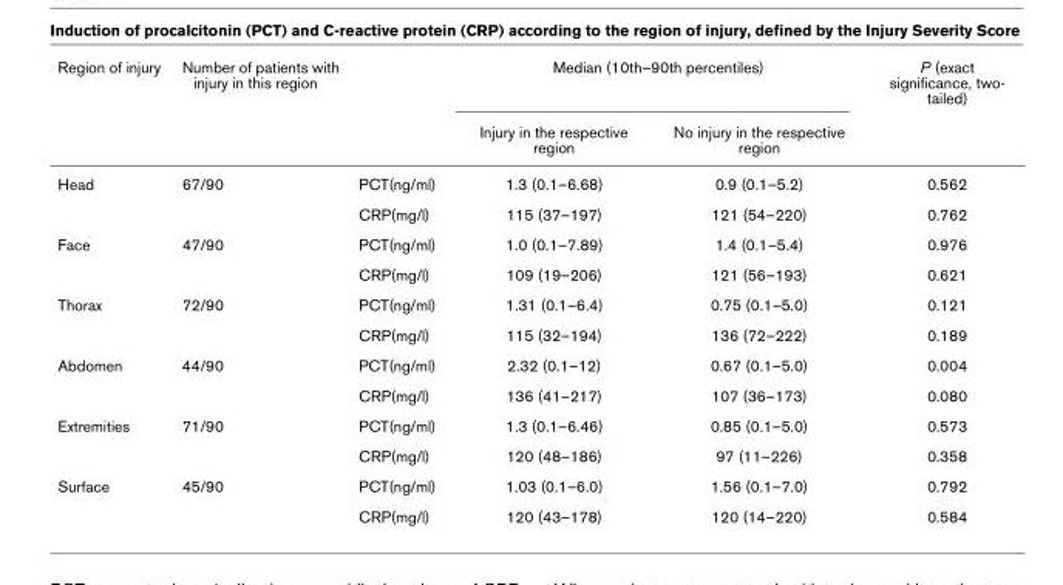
<table><thead><tr><td rowspan="2">Region of injury</td><td rowspan="2">Number of patients with injury in this region</td><td rowspan="2"></td><td colspan="2">Median (10th–90th percentiles)</td><td rowspan="2">P (exact significance, two- tailed)</td></tr><tr><td>Injury in the respective region</td><td>No injury in the respective region</td></tr></thead><tbody><tr><td rowspan="2">Head</td><td>67/90</td><td>PCT(ng/ml)</td><td>1.3 (0.1–6.68)</td><td>0.9 (0.1–5.2)</td><td>0.562</td></tr><tr><td></td><td>CRP(mg/l)</td><td>115 (37–197)</td><td>121 (54–220)</td><td>0.762</td></tr><tr><td rowspan="2">Face</td><td>47/90</td><td>PCT(ng/ml)</td><td>1.0 (0.1–7.89)</td><td>1.4 (0.1–5.4)</td><td>0.976</td></tr><tr><td></td><td>CRP(mg/l)</td><td>109 (19–206)</td><td>121 (56–193)</td><td>0.621</td></tr><tr><td rowspan="2">Thorax</td><td>72/90</td><td>PCT(ng/ml)</td><td>1.31 (0.1–6.4)</td><td>0.75 (0.1–5.0)</td><td>0.121</td></tr><tr><td></td><td>CRP(mg/l)</td><td>115 (32–194)</td><td>136 (72–222)</td><td>0.189</td></tr><tr><td rowspan="2">Abdomen</td><td>44/90</td><td>PCT(ng/ml)</td><td>2.32 (0.1–12)</td><td>0.67 (0.1–5.0)</td><td>0.004</td></tr><tr><td></td><td>CRP(mg/l)</td><td>136 (41–217)</td><td>107 (36–173)</td><td>0.080</td></tr><tr><td rowspan="2">Extremities</td><td>71/90</td><td>PCT(ng/ml)</td><td>1.3 (0.1–6.46)</td><td>0.85 (0.1–5.0)</td><td>0.573</td></tr><tr><td></td><td>CRP(mg/l)</td><td>120 (48–186)</td><td>97 (11–226)</td><td>0.358</td></tr><tr><td rowspan="2">Surface</td><td>45/90</td><td>PCT(ng/ml)</td><td>1.03 (0.1–6.0)</td><td>1.56 (0.1–7.0)</td><td>0.792</td></tr><tr><td></td><td>CRP(mg/l)</td><td>120 (43–178)</td><td>120 (14–220)</td><td>0.584</td></tr></tbody></table>